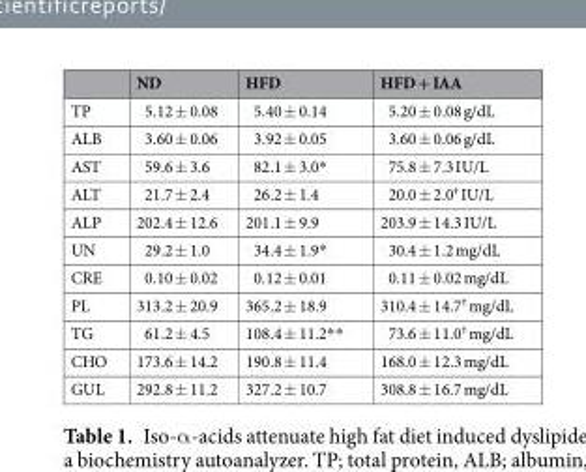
<table><thead><tr><td></td><td>ND</td><td>HFD</td><td>HFD + IAA</td></tr></thead><tbody><tr><td>TP</td><td>5.12 ± 0.08</td><td>5.40 ± 0.14</td><td>5.20 ± 0.08 g/dL</td></tr><tr><td>ALB</td><td>3.60 ± 0.06</td><td>3.92 ± 0.05</td><td>3.60 ± 0.06 g/dL</td></tr><tr><td>AST</td><td>59.6 ± 3.6</td><td>82.1 ± 3.0*</td><td>75.8 ± 7.3 IU/L</td></tr><tr><td>ALT</td><td>21.7 ± 2.4</td><td>26.2 ± 1.4</td><td>20.0 ± 2.0<sup>†</sup> IU/L</td></tr><tr><td>ALP</td><td>202.4 ± 12.6</td><td>201.1 ± 9.9</td><td>203.9 ± 14.3 IU/L</td></tr><tr><td>UN</td><td>29.2 ± 1.0</td><td>34.4 ± 1.9*</td><td>30.4 ± 1.2 mg/dL</td></tr><tr><td>CRE</td><td>0.10 ± 0.02</td><td>0.12 ± 0.01</td><td>0.11 ± 0.02 mg/dL</td></tr><tr><td>PL</td><td>313.2 ± 20.9</td><td>365.2 ± 18.9</td><td>310.4 ± 14.7<sup>†</sup> mg/dL</td></tr><tr><td>TG</td><td>61.2 ± 4.5</td><td>108.4 ± 11.2**</td><td>73.6 ± 11.0<sup>†</sup> mg/dL</td></tr><tr><td>CHO</td><td>173.6 ± 14.2</td><td>190.8 ± 11.4</td><td>168.0 ± 12.3 mg/dL</td></tr><tr><td>GUL</td><td>292.8 ± 11.2</td><td>327.2 ± 10.7</td><td>308.8 ± 16.7 mg/dL</td></tr></tbody></table>